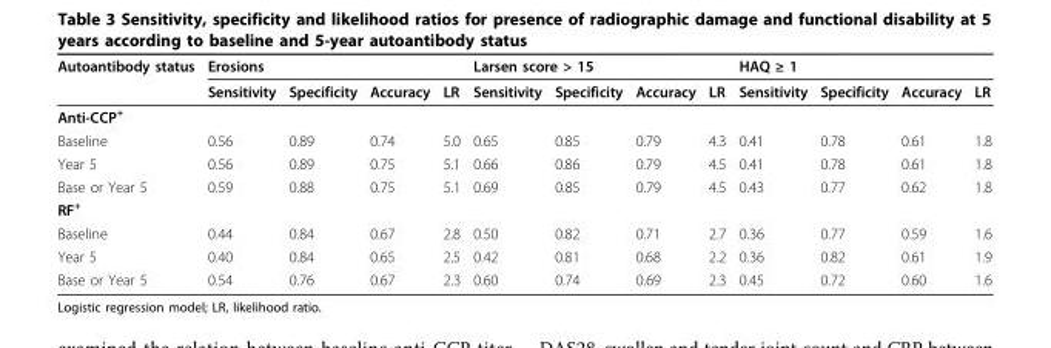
<table><thead><tr><td rowspan="2">Autoantibody status</td><td colspan="4">Erosions</td><td colspan="4">Larsen score &gt; 15</td><td colspan="4">HAQ ≥ 1</td></tr><tr><td>Sensitivity</td><td>Specificity</td><td>Accuracy</td><td>LR</td><td>Sensitivity</td><td>Specificity</td><td>Accuracy</td><td>LR</td><td>Sensitivity</td><td>Specificity</td><td>Accuracy</td><td>LR</td></tr></thead><tbody><tr><td colspan="13">Anti-CCP<sup>+</sup></td></tr><tr><td>Baseline</td><td>0.56</td><td>0.89</td><td>0.74</td><td>5.0</td><td>0.65</td><td>0.85</td><td>0.79</td><td>4.3</td><td>0.41</td><td>0.78</td><td>0.61</td><td>1.8</td></tr><tr><td>Year 5</td><td>0.56</td><td>0.89</td><td>0.75</td><td>5.1</td><td>0.66</td><td>0.86</td><td>0.79</td><td>4.5</td><td>0.41</td><td>0.78</td><td>0.61</td><td>1.8</td></tr><tr><td>Base or Year 5</td><td>0.59</td><td>0.88</td><td>0.75</td><td>5.1</td><td>0.69</td><td>0.85</td><td>0.79</td><td>4.5</td><td>0.43</td><td>0.77</td><td>0.62</td><td>1.8</td></tr><tr><td colspan="13">RF<sup>+</sup></td></tr><tr><td>Baseline</td><td>0.44</td><td>0.84</td><td>0.67</td><td>2.8</td><td>0.50</td><td>0.82</td><td>0.71</td><td>2.7</td><td>0.36</td><td>0.77</td><td>0.59</td><td>1.6</td></tr><tr><td>Year 5</td><td>0.40</td><td>0.84</td><td>0.65</td><td>2.5</td><td>0.42</td><td>0.81</td><td>0.68</td><td>2.2</td><td>0.36</td><td>0.82</td><td>0.61</td><td>1.9</td></tr><tr><td>Base or Year 5</td><td>0.54</td><td>0.76</td><td>0.67</td><td>2.3</td><td>0.60</td><td>0.74</td><td>0.69</td><td>2.3</td><td>0.45</td><td>0.72</td><td>0.60</td><td>1.6</td></tr></tbody></table>